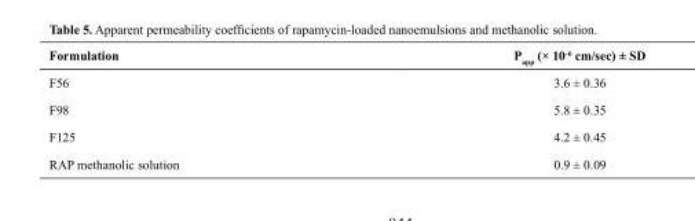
<table><thead><tr><td>Formulation</td><td>P<sub>app</sub> (× 10<sup>-6</sup> cm/sec) ± SD</td></tr></thead><tbody><tr><td>F56</td><td>3.6 ± 0.36</td></tr><tr><td>F98</td><td>5.8 ± 0.35</td></tr><tr><td>F125</td><td>4.2 ± 0.45</td></tr><tr><td>RAP methanolic solution</td><td>0.9 ± 0.09</td></tr></tbody></table>